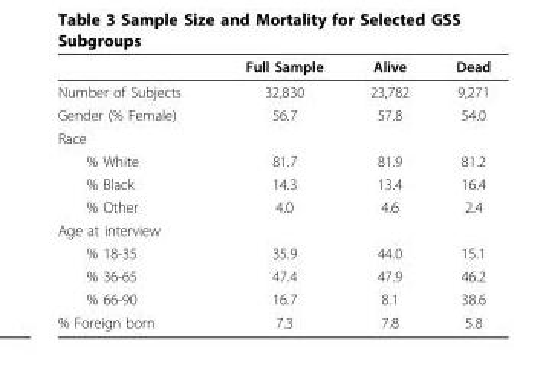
<table><thead><tr><td></td><td>Full Sample</td><td>Alive</td><td>Dead</td></tr></thead><tbody><tr><td>Number of Subjects</td><td>32,830</td><td>23,782</td><td>9,271</td></tr><tr><td>Gender (% Female)</td><td>56.7</td><td>57.8</td><td>54.0</td></tr><tr><td colspan="4">Race</td></tr><tr><td>% White</td><td>81.7</td><td>81.9</td><td>81.2</td></tr><tr><td>% Black</td><td>14.3</td><td>13.4</td><td>16.4</td></tr><tr><td>% Other</td><td>4.0</td><td>4.6</td><td>2.4</td></tr><tr><td colspan="4">Age at interview</td></tr><tr><td>% 18-35</td><td>35.9</td><td>44.0</td><td>15.1</td></tr><tr><td>% 36-65</td><td>47.4</td><td>47.9</td><td>46.2</td></tr><tr><td>% 66-90</td><td>16.7</td><td>8.1</td><td>38.6</td></tr><tr><td>% Foreign born</td><td>7.3</td><td>7.8</td><td>5.8</td></tr></tbody></table>